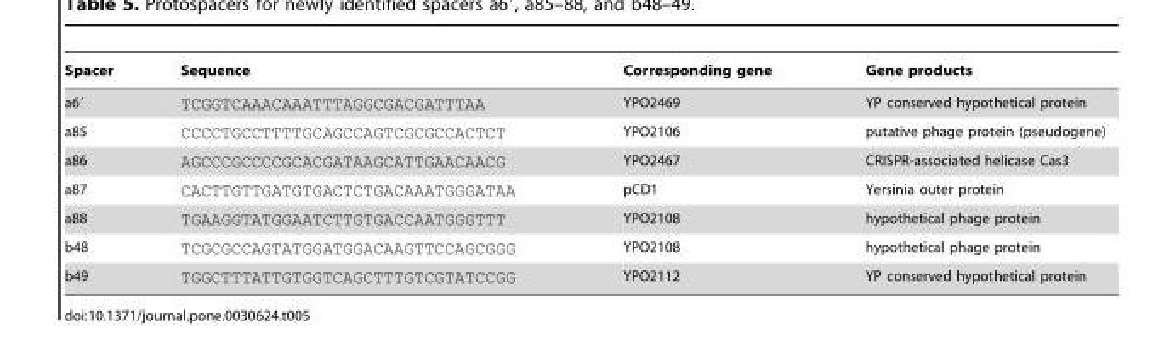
<table><thead><tr><td>Spacer</td><td>Sequence</td><td>Corresponding gene</td><td>Gene products</td></tr></thead><tbody><tr><td>a6′</td><td>TCGGTCAAACAAATTTAGGCGACGATTTAA</td><td>YPO2469</td><td>YP conserved hypothetical protein</td></tr><tr><td>a85</td><td>CCCCTGCCTTTTGCAGCCAGTCGCGCCACTCT</td><td>YPO2106</td><td>putative phage protein (pseudogene)</td></tr><tr><td>a86</td><td>AGCCCGCCCCGCACGATAAGCATTGAACAACG</td><td>YPO2467</td><td>CRISPR-associated helicase Cas3</td></tr><tr><td>a87</td><td>CACTTGTTGATGTGACTCTGACAAATGGGATAA</td><td>pCD1</td><td>Yersinia outer protein</td></tr><tr><td>a88</td><td>TGAAGGTATGGAATCTTGTGACCAATGGGTTT</td><td>YPO2108</td><td>hypothetical phage protein</td></tr><tr><td>b48</td><td>TCGCGCCAGTATGGATGGACAAGTTCCAGCGGG</td><td>YPO2108</td><td>hypothetical phage protein</td></tr><tr><td>b49</td><td>TGGCTTTATTGTGGTCAGCTTTGTCGTATCCGG</td><td>YPO2112</td><td>YP conserved hypothetical protein</td></tr></tbody></table>